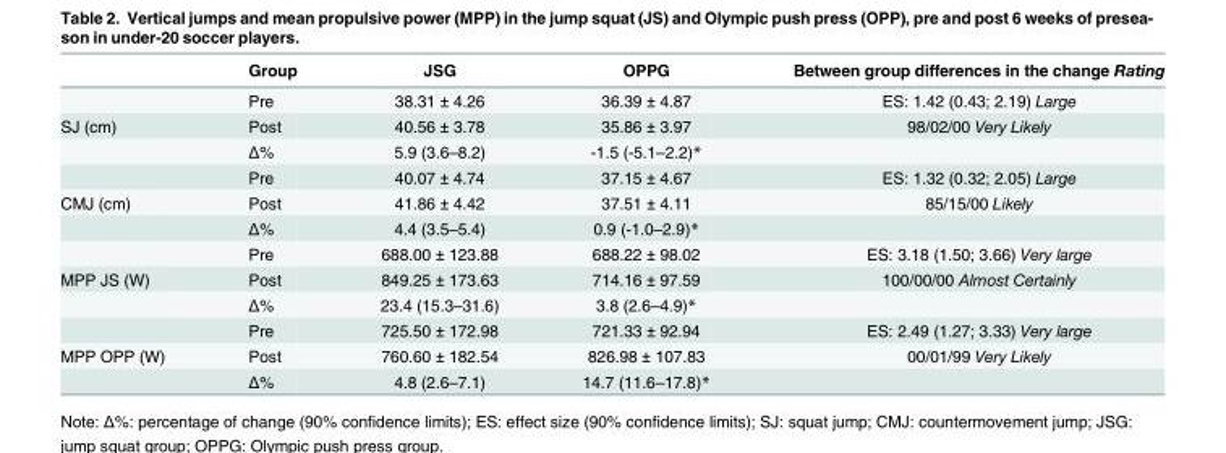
<table><thead><tr><td></td><td>Group</td><td>JSG</td><td>OPPG</td><td>Between group differences in the change Rating</td></tr></thead><tbody><tr><td></td><td>Pre</td><td>38.31 ± 4.26</td><td>36.39 ± 4.87</td><td>ES: 1.42 (0.43; 2.19) Large</td></tr><tr><td rowspan="3">SJ (cm)</td><td>Post</td><td>40.56 ± 3.78</td><td>35.86 ± 3.97</td><td>98/02/00 Very Likely</td></tr><tr><td>Δ%</td><td>5.9 (3.6–8.2)</td><td>-1.5 (-5.1–2.2)*</td><td></td></tr><tr><td>Pre</td><td>40.07 ± 4.74</td><td>37.15 ± 4.67</td><td>ES: 1.32 (0.32; 2.05) Large</td></tr><tr><td rowspan="3">CMJ (cm)</td><td>Post</td><td>41.86 ± 4.42</td><td>37.51 ± 4.11</td><td>85/15/00 Likely</td></tr><tr><td>Δ%</td><td>4.4 (3.5–5.4)</td><td>0.9 (-1.0–2.9)*</td><td></td></tr><tr><td>Pre</td><td>688.00 ± 123.88</td><td>688.22 ± 98.02</td><td>ES: 3.18 (1.50; 3.66) Very large</td></tr><tr><td rowspan="3">MPP JS (W)</td><td>Post</td><td>849.25 ± 173.63</td><td>714.16 ± 97.59</td><td>100/00/00 Almost Certainly</td></tr><tr><td>Δ%</td><td>23.4 (15.3–31.6)</td><td>3.8 (2.6–4.9)*</td><td></td></tr><tr><td>Pre</td><td>725.50 ± 172.98</td><td>721.33 ± 92.94</td><td>ES: 2.49 (1.27; 3.33) Very large</td></tr><tr><td rowspan="2">MPP OPP (W)</td><td>Post</td><td>760.60 ± 182.54</td><td>826.98 ± 107.83</td><td>00/01/99 Very Likely</td></tr><tr><td>Δ%</td><td>4.8 (2.6–7.1)</td><td>14.7 (11.6–17.8)*</td><td></td></tr></tbody></table>